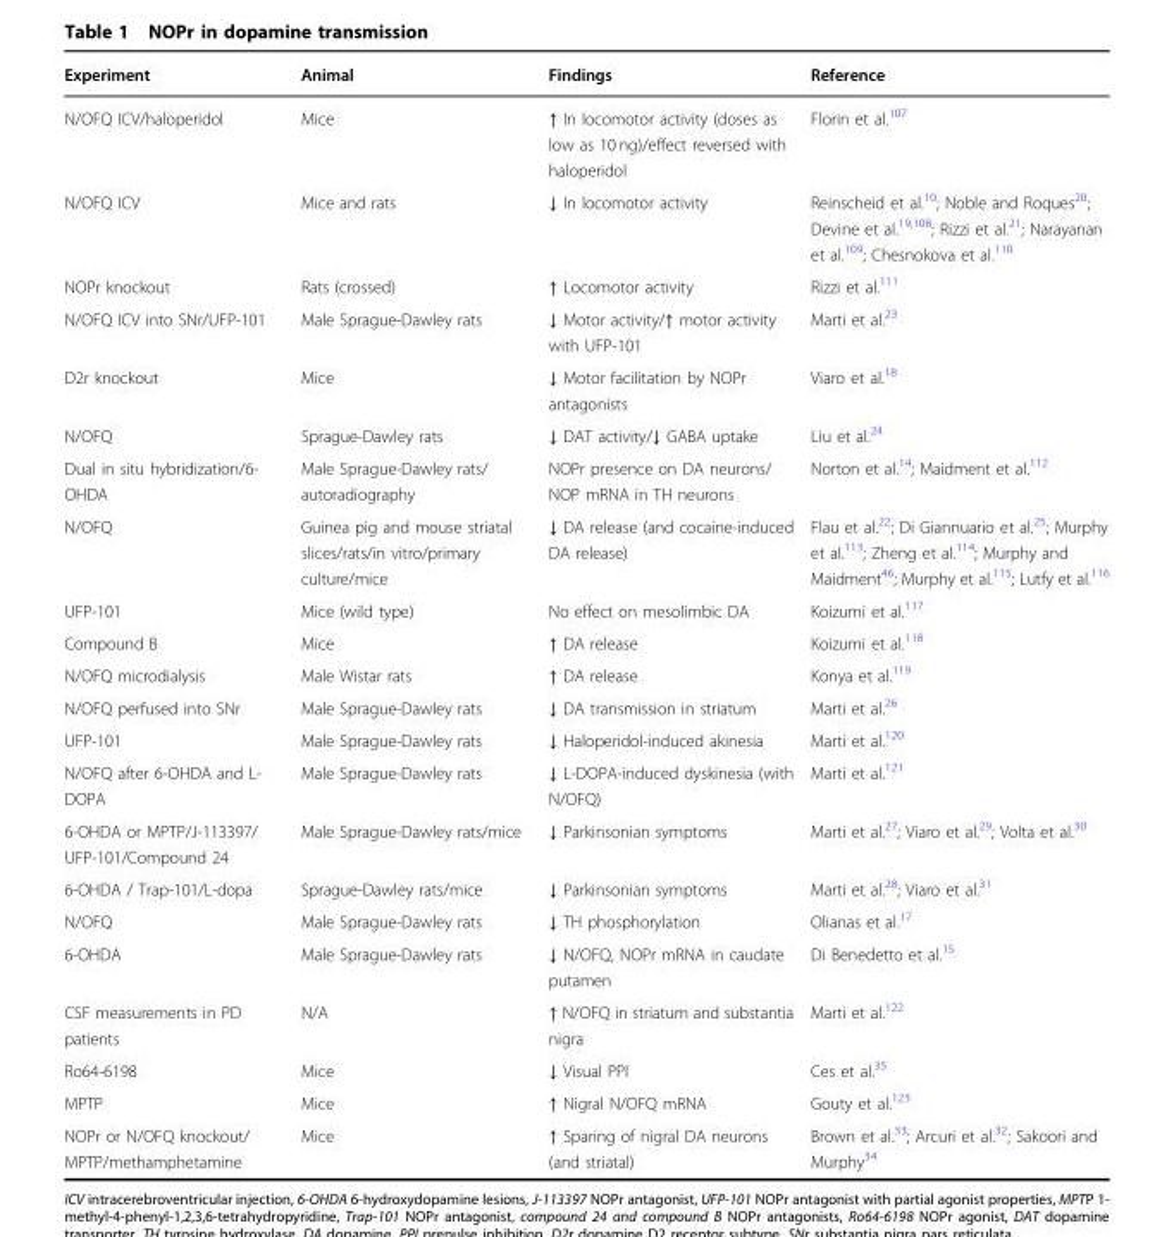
<table><thead><tr><td>Experiment</td><td>Animal</td><td>Findings</td><td>Reference</td></tr></thead><tbody><tr><td>N/OFQ ICV/haloperidol</td><td>Mice</td><td>↑ In locomotor activity (doses as low as 10 ng)/effect reversed with haloperidol</td><td>Florin et al.<sup>107</sup></td></tr><tr><td>N/OFQ ICV</td><td>Mice and rats</td><td>↓ In locomotor activity</td><td>Reinscheid et al.<sup>10</sup>; Noble and Roques<sup>20</sup>; Devine et al.<sup>19,108</sup>; Rizzi et al.<sup>21</sup>; Narayanan et al.<sup>109</sup>; Chesnokova et al.<sup>110</sup></td></tr><tr><td>NOPr knockout</td><td>Rats (crossed)</td><td>↑ Locomotor activity</td><td>Rizzi et al.<sup>111</sup></td></tr><tr><td>N/OFQ ICV into SNr/UFP-101</td><td>Male Sprague-Dawley rats</td><td>↓ Motor activity/↑ motor activity with UFP-101</td><td>Marti et al.<sup>23</sup></td></tr><tr><td>D2r knockout</td><td>Mice</td><td>↓ Motor facilitation by NOPr antagonists</td><td>Viaro et al.<sup>18</sup></td></tr><tr><td>N/OFQ</td><td>Sprague-Dawley rats</td><td>↓ DAT activity/↓ GABA uptake</td><td>Liu et al.<sup>24</sup></td></tr><tr><td>Dual in situ hybridization/6- OHDA</td><td>Male Sprague-Dawley rats/ autoradiography</td><td>NOPr presence on DA neurons/ NOP mRNA in TH neurons</td><td>Norton et al.<sup>14</sup>; Maidment et al.<sup>112</sup></td></tr><tr><td>N/OFQ</td><td>Guinea pig and mouse striatal slices/rats/in vitro/primary culture/mice</td><td>↓ DA release (and cocaine-induced DA release)</td><td>Flau et al.<sup>22</sup>; Di Giannuario et al.<sup>25</sup>; Murphy et al.<sup>113</sup>; Zheng et al.<sup>114</sup>; Murphy and Maidment<sup>46</sup>; Murphy et al.<sup>115</sup>; Lutfy et al.<sup>116</sup></td></tr><tr><td>UFP-101</td><td>Mice (wild type)</td><td>No effect on mesolimbic DA</td><td>Koizumi et al.<sup>117</sup></td></tr><tr><td>Compound B</td><td>Mice</td><td>↑ DA release</td><td>Koizumi et al.<sup>118</sup></td></tr><tr><td>N/OFQ microdialysis</td><td>Male Wistar rats</td><td>↑ DA release</td><td>Konya et al.<sup>119</sup></td></tr><tr><td>N/OFQ perfused into SNr</td><td>Male Sprague-Dawley rats</td><td>↓ DA transmission in striatum</td><td>Marti et al.<sup>26</sup></td></tr><tr><td>UFP-101</td><td>Male Sprague-Dawley rats</td><td>↓ Haloperidol-induced akinesia</td><td>Marti et al.<sup>120</sup></td></tr><tr><td>N/OFQ after 6-OHDA and L- DOPA</td><td>Male Sprague-Dawley rats</td><td>↓ L-DOPA-induced dyskinesia (with N/OFQ)</td><td>Marti et al.<sup>121</sup></td></tr><tr><td>6-OHDA or MPTP/J-113397/ UFP-101/Compound 24</td><td>Male Sprague-Dawley rats/mice</td><td>↓ Parkinsonian symptoms</td><td>Marti et al.<sup>27</sup>; Viaro et al.<sup>29</sup>; Volta et al.<sup>30</sup></td></tr><tr><td>6-OHDA / Trap-101/L-dopa</td><td>Sprague-Dawley rats/mice</td><td>↓ Parkinsonian symptoms</td><td>Marti et al.<sup>28</sup>; Viaro et al.<sup>31</sup></td></tr><tr><td>N/OFQ</td><td>Male Sprague-Dawley rats</td><td>↓ TH phosphorylation</td><td>Olianas et al.<sup>17</sup></td></tr><tr><td>6-OHDA</td><td>Male Sprague-Dawley rats</td><td>↓ N/OFQ, NOPr mRNA in caudate putamen</td><td>Di Benedetto et al.<sup>15</sup></td></tr><tr><td>CSF measurements in PD patients</td><td>N/A</td><td>↑ N/OFQ in striatum and substantia nigra</td><td>Marti et al.<sup>122</sup></td></tr><tr><td>Ro64-6198</td><td>Mice</td><td>↓ Visual PPI</td><td>Ces et al.<sup>35</sup></td></tr><tr><td>MPTP</td><td>Mice</td><td>↑ Nigral N/OFQ mRNA</td><td>Gouty et al.<sup>123</sup></td></tr><tr><td>NOPr or N/OFQ knockout/ MPTP/methamphetamine</td><td>Mice</td><td>↑ Sparing of nigral DA neurons (and striatal)</td><td>Brown et al.<sup>33</sup>; Arcuri et al.<sup>32</sup>; Sakoori and Murphy<sup>34</sup></td></tr></tbody></table>